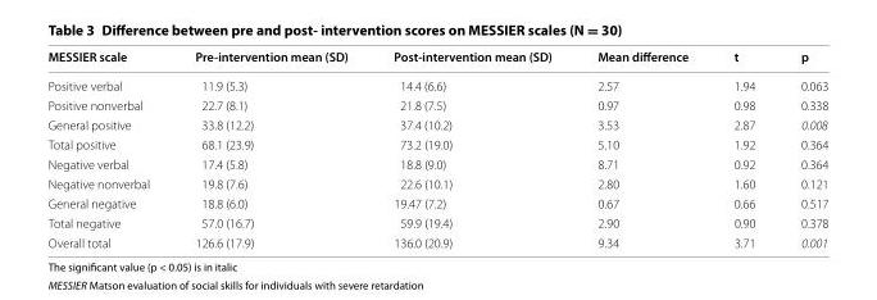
<table><thead><tr><td>MESSIER scale</td><td>Pre‑intervention mean (SD)</td><td>Post‑intervention mean (SD)</td><td>Mean difference</td><td>t</td><td>p</td></tr></thead><tbody><tr><td>Positive verbal</td><td>11.9 (5.3)</td><td>14.4 (6.6)</td><td>2.57</td><td>1.94</td><td>0.063</td></tr><tr><td>Positive nonverbal</td><td>22.7 (8.1)</td><td>21.8 (7.5)</td><td>0.97</td><td>0.98</td><td>0.338</td></tr><tr><td>General positive</td><td>33.8 (12.2)</td><td>37.4 (10.2)</td><td>3.53</td><td>2.87</td><td>0.008</td></tr><tr><td>Total positive</td><td>68.1 (23.9)</td><td>73.2 (19.0)</td><td>5.10</td><td>1.92</td><td>0.364</td></tr><tr><td>Negative verbal</td><td>17.4 (5.8)</td><td>18.8 (9.0)</td><td>8.71</td><td>0.92</td><td>0.364</td></tr><tr><td>Negative nonverbal</td><td>19.8 (7.6)</td><td>22.6 (10.1)</td><td>2.80</td><td>1.60</td><td>0.121</td></tr><tr><td>General negative</td><td>18.8 (6.0)</td><td>19.47 (7.2)</td><td>0.67</td><td>0.66</td><td>0.517</td></tr><tr><td>Total negative</td><td>57.0 (16.7)</td><td>59.9 (19.4)</td><td>2.90</td><td>0.90</td><td>0.378</td></tr><tr><td>Overall total</td><td>126.6 (17.9)</td><td>136.0 (20.9)</td><td>9.34</td><td>3.71</td><td>0.001</td></tr></tbody></table>